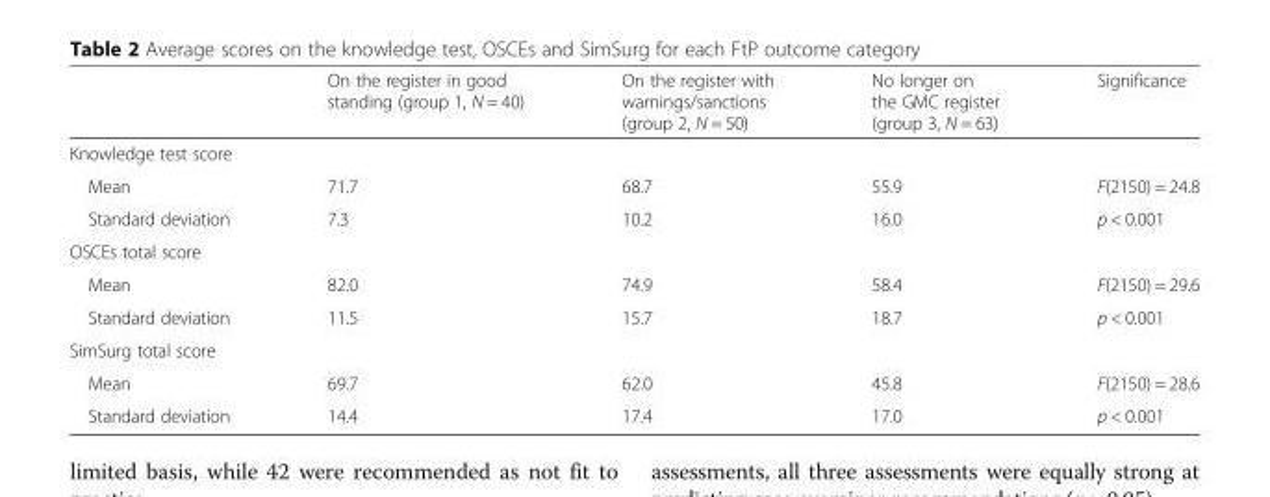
<table><thead><tr><td></td><td>On the register in good standing (group 1, N = 40)</td><td>On the register with warnings/sanctions (group 2, N = 50)</td><td>No longer on the GMC register (group 3, N = 63)</td><td>Significance</td></tr></thead><tbody><tr><td colspan="5">Knowledge test score</td></tr><tr><td>Mean</td><td>71.7</td><td>68.7</td><td>55.9</td><td>F(2150) = 24.8</td></tr><tr><td>Standard deviation</td><td>7.3</td><td>10.2</td><td>16.0</td><td>p &lt; 0.001</td></tr><tr><td colspan="5">OSCEs total score</td></tr><tr><td>Mean</td><td>82.0</td><td>74.9</td><td>58.4</td><td>F(2150) = 29.6</td></tr><tr><td>Standard deviation</td><td>11.5</td><td>15.7</td><td>18.7</td><td>p &lt; 0.001</td></tr><tr><td colspan="5">SimSurg total score</td></tr><tr><td>Mean</td><td>69.7</td><td>62.0</td><td>45.8</td><td>F(2150) = 28.6</td></tr><tr><td>Standard deviation</td><td>14.4</td><td>17.4</td><td>17.0</td><td>p &lt; 0.001</td></tr></tbody></table>